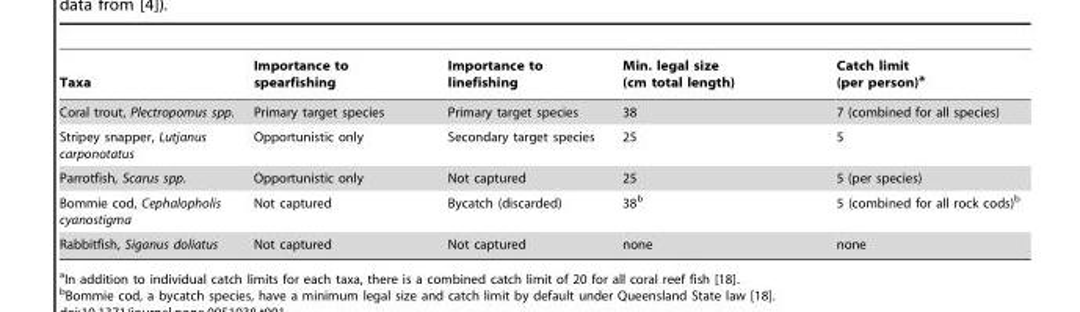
<table><thead><tr><td>Taxa</td><td>Importance to spearfishing</td><td>Importance to linefishing</td><td>Min. legal size (cm total length)</td><td>Catch limit (per person)<sup>a</sup></td></tr></thead><tbody><tr><td>Coral trout, Plectropomus spp.</td><td>Primary target species</td><td>Primary target species</td><td>38</td><td>7 (combined for all species)</td></tr><tr><td>Stripey snapper, Lutjanus carponotatus</td><td>Opportunistic only</td><td>Secondary target species</td><td>25</td><td>5</td></tr><tr><td>Parrotfish, Scarus spp.</td><td>Opportunistic only</td><td>Not captured</td><td>25</td><td>5 (per species)</td></tr><tr><td>Bommie cod, Cephalopholis cyanostigma</td><td>Not captured</td><td>Bycatch (discarded)</td><td>38<sup>b</sup></td><td>5 (combined for all rock cods)<sup>b</sup></td></tr><tr><td>Rabbitfish, Siganus doliatus</td><td>Not captured</td><td>Not captured</td><td>none</td><td>none</td></tr></tbody></table>